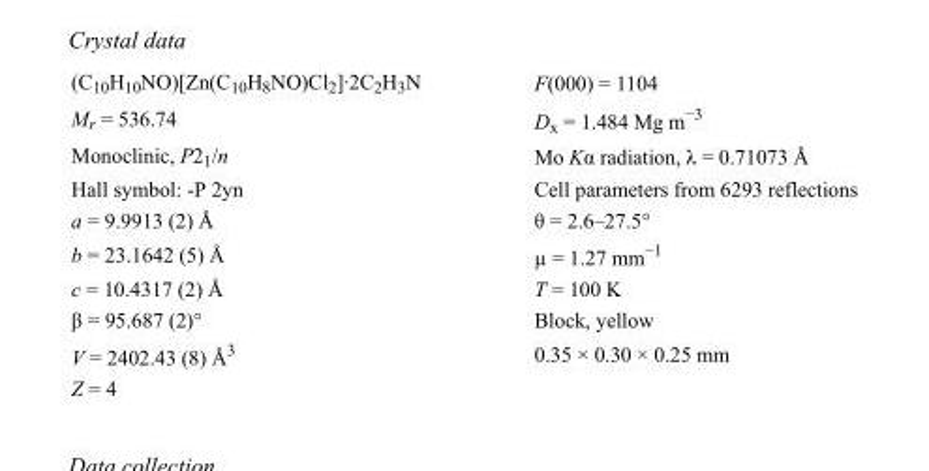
<table><tbody><tr><td>(C<sub>10</sub>H<sub>10</sub>NO)[Zn(C<sub>10</sub>H<sub>8</sub>NO)Cl<sub>2</sub>]·2C<sub>2</sub>H<sub>3</sub>N</td><td>F(000) = 1104</td></tr><tr><td>M<sub>r</sub> = 536.74</td><td>D<sub>x</sub> = 1.484 Mg m<sup>−3</sup></td></tr><tr><td>Monoclinic, P2<sub>1</sub>/n</td><td>Mo Kα radiation, λ = 0.71073 Å</td></tr><tr><td>Hall symbol: -P 2yn</td><td>Cell parameters from 6293 reflections</td></tr><tr><td>a = 9.9913 (2) Å</td><td>θ = 2.6–27.5°</td></tr><tr><td>b = 23.1642 (5) Å</td><td>µ = 1.27 mm<sup>−1</sup></td></tr><tr><td>c = 10.4317 (2) Å</td><td>T = 100 K</td></tr><tr><td>β = 95.687 (2)°</td><td>Block, yellow</td></tr><tr><td>V = 2402.43 (8) Å<sup>3</sup></td><td>0.35 × 0.30 × 0.25 mm</td></tr><tr><td>Z = 4</td><td></td></tr></tbody></table>